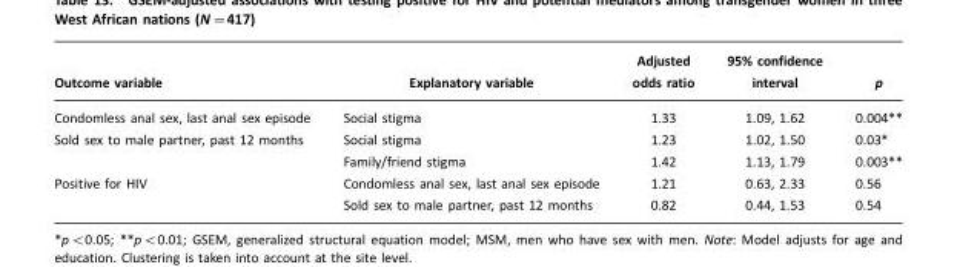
<table><thead><tr><td>Outcome variable</td><td>Explanatory variable</td><td>Adjusted odds ratio</td><td>95% confidence interval</td><td>p</td></tr></thead><tbody><tr><td>Condomless anal sex, last anal sex episode</td><td>Social stigma</td><td>1.33</td><td>1.09, 1.62</td><td>0.004**</td></tr><tr><td rowspan="2">Sold sex to male partner, past 12 months</td><td>Social stigma</td><td>1.23</td><td>1.02, 1.50</td><td>0.03*</td></tr><tr><td>Family/friend stigma</td><td>1.42</td><td>1.13, 1.79</td><td>0.003**</td></tr><tr><td rowspan="2">Positive for HIV</td><td>Condomless anal sex, last anal sex episode</td><td>1.21</td><td>0.63, 2.33</td><td>0.56</td></tr><tr><td>Sold sex to male partner, past 12 months</td><td>0.82</td><td>0.44, 1.53</td><td>0.54</td></tr></tbody></table>